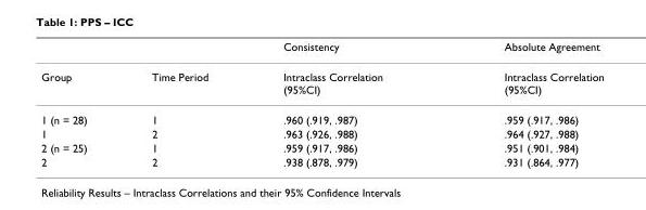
<table><thead><tr><td></td><td></td><td>Consistency</td><td>Absolute Agreement</td></tr></thead><tbody><tr><td>Group</td><td>Time Period</td><td>Intraclass Correlation (95%CI)</td><td>Intraclass Correlation (95%CI)</td></tr><tr><td>1 (n = 28)</td><td>1</td><td>.960 (.919, .987)</td><td>.959 (.917, .986)</td></tr><tr><td>1</td><td>2</td><td>.963 (.926, .988)</td><td>.964 (.927, .988)</td></tr><tr><td>2 (n = 25)</td><td>1</td><td>.959 (.917, .986)</td><td>.951 (.901, .984)</td></tr><tr><td>2</td><td>2</td><td>.938 (.878, .979)</td><td>.931 (.864, .977)</td></tr></tbody></table>